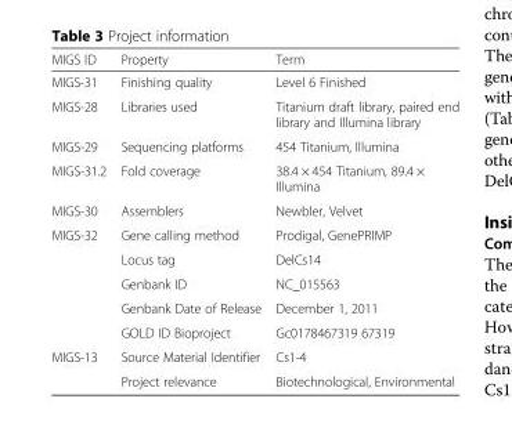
<table><thead><tr><td>MIGS ID</td><td>Property</td><td>Term</td></tr></thead><tbody><tr><td>MIGS-31</td><td>Finishing quality</td><td>Level 6 Finished</td></tr><tr><td>MIGS-28</td><td>Libraries used</td><td>Titanium draft library, paired end library and Illumina library</td></tr><tr><td>MIGS-29</td><td>Sequencing platforms</td><td>454 Titanium, Illumina</td></tr><tr><td>MIGS-31.2</td><td>Fold coverage</td><td>38.4 × 454 Titanium, 89.4 × Illumina</td></tr><tr><td>MIGS-30</td><td>Assemblers</td><td>Newbler, Velvet</td></tr><tr><td rowspan="5">MIGS-32</td><td>Gene calling method</td><td>Prodigal, GenePRIMP</td></tr><tr><td>Locus tag</td><td>DelCs14</td></tr><tr><td>Genbank ID</td><td>NC_015563</td></tr><tr><td>Genbank Date of Release</td><td>December 1, 2011</td></tr><tr><td>GOLD ID Bioproject</td><td>Gc0178467319 67319</td></tr><tr><td rowspan="2">MIGS-13</td><td>Source Material Identifier</td><td>Cs1-4</td></tr><tr><td>Project relevance</td><td>Biotechnological, Environmental</td></tr></tbody></table>